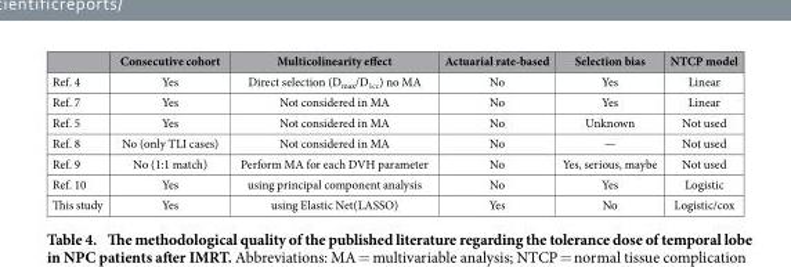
<table><thead><tr><td></td><td>Consecutive cohort</td><td>Multicolinearity effect</td><td>Actuarial rate-based</td><td>Selection bias</td><td>NTCP model</td></tr></thead><tbody><tr><td>Ref. 4</td><td>Yes</td><td>Direct selection (D<sub>max</sub>/D<sub>1cc</sub>) no MA</td><td>No</td><td>Yes</td><td>Linear</td></tr><tr><td>Ref. 7</td><td>Yes</td><td>Not considered in MA</td><td>No</td><td>Yes</td><td>Linear</td></tr><tr><td>Ref. 5</td><td>Yes</td><td>Not considered in MA</td><td>No</td><td>Unknown</td><td>Not used</td></tr><tr><td>Ref. 8</td><td>No (only TLI cases)</td><td>Not considered in MA</td><td>No</td><td>—</td><td>Not used</td></tr><tr><td>Ref. 9</td><td>No (1:1 match)</td><td>Perform MA for each DVH parameter</td><td>No</td><td>Yes, serious, maybe</td><td>Not used</td></tr><tr><td>Ref. 10</td><td>Yes</td><td>using principal component analysis</td><td>No</td><td>Yes</td><td>Logistic</td></tr><tr><td>This study</td><td>Yes</td><td>using Elastic Net(LASSO)</td><td>Yes</td><td>No</td><td>Logistic/cox</td></tr></tbody></table>